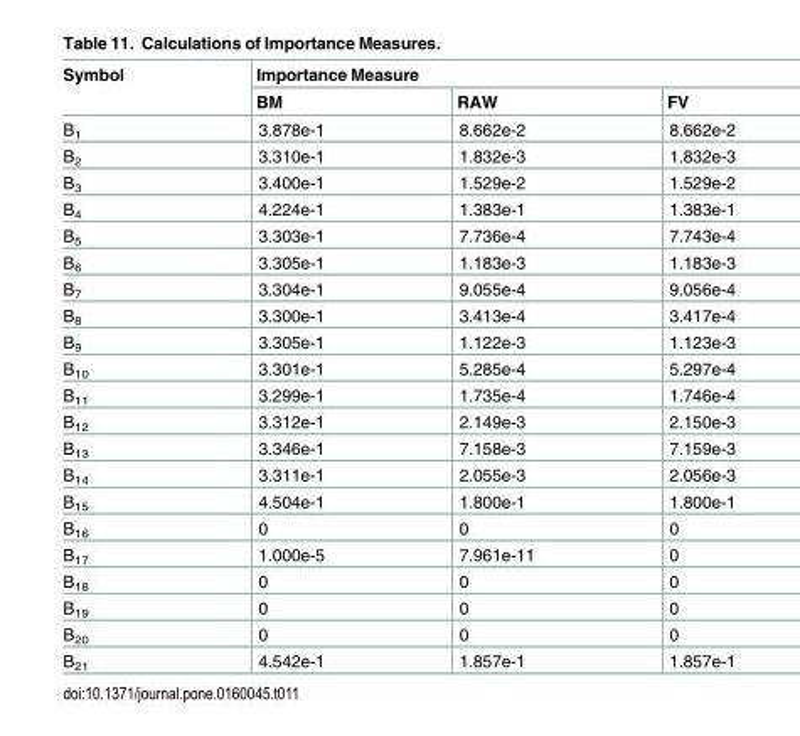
<table><thead><tr><td rowspan="2">Symbol</td><td colspan="3">Importance Measure</td></tr><tr><td>BM</td><td>RAW</td><td>FV</td></tr></thead><tbody><tr><td>B<sub>1</sub></td><td>3.878e-1</td><td>8.662e-2</td><td>8.662e-2</td></tr><tr><td>B<sub>2</sub></td><td>3.310e-1</td><td>1.832e-3</td><td>1.832e-3</td></tr><tr><td>B<sub>3</sub></td><td>3.400e-1</td><td>1.529e-2</td><td>1.529e-2</td></tr><tr><td>B<sub>4</sub></td><td>4.224e-1</td><td>1.383e-1</td><td>1.383e-1</td></tr><tr><td>B<sub>5</sub></td><td>3.303e-1</td><td>7.736e-4</td><td>7.743e-4</td></tr><tr><td>B<sub>6</sub></td><td>3.305e-1</td><td>1.183e-3</td><td>1.183e-3</td></tr><tr><td>B<sub>7</sub></td><td>3.304e-1</td><td>9.055e-4</td><td>9.056e-4</td></tr><tr><td>B<sub>8</sub></td><td>3.300e-1</td><td>3.413e-4</td><td>3.417e-4</td></tr><tr><td>B<sub>9</sub></td><td>3.305e-1</td><td>1.122e-3</td><td>1.123e-3</td></tr><tr><td>B<sub>10</sub></td><td>3.301e-1</td><td>5.285e-4</td><td>5.297e-4</td></tr><tr><td>B<sub>11</sub></td><td>3.299e-1</td><td>1.735e-4</td><td>1.746e-4</td></tr><tr><td>B<sub>12</sub></td><td>3.312e-1</td><td>2.149e-3</td><td>2.150e-3</td></tr><tr><td>B<sub>13</sub></td><td>3.346e-1</td><td>7.158e-3</td><td>7.159e-3</td></tr><tr><td>B<sub>14</sub></td><td>3.311e-1</td><td>2.055e-3</td><td>2.056e-3</td></tr><tr><td>B<sub>15</sub></td><td>4.504e-1</td><td>1.800e-1</td><td>1.800e-1</td></tr><tr><td>B<sub>16</sub></td><td>0</td><td>0</td><td>0</td></tr><tr><td>B<sub>17</sub></td><td>1.000e-5</td><td>7.961e-11</td><td>0</td></tr><tr><td>B<sub>18</sub></td><td>0</td><td>0</td><td>0</td></tr><tr><td>B<sub>19</sub></td><td>0</td><td>0</td><td>0</td></tr><tr><td>B<sub>20</sub></td><td>0</td><td>0</td><td>0</td></tr><tr><td>B<sub>21</sub></td><td>4.542e-1</td><td>1.857e-1</td><td>1.857e-1</td></tr></tbody></table>